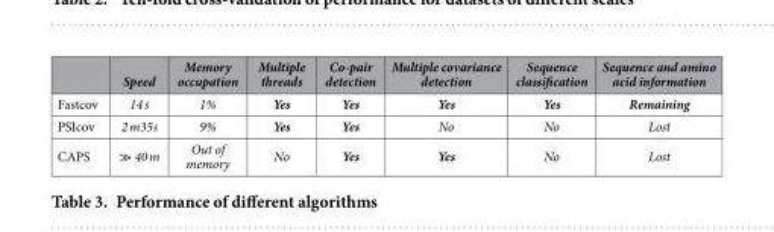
<table><thead><tr><td></td><td>Speed</td><td>Memory occupation</td><td>Multiple threads</td><td>Co-pair detection</td><td>Multiple covariance detection</td><td>Sequence classification</td><td>Sequence and amino acid information</td></tr></thead><tbody><tr><td>Fastcov</td><td>14 s</td><td>1%</td><td>Yes</td><td>Yes</td><td>Yes</td><td>Yes</td><td>Remaining</td></tr><tr><td>PSIcov</td><td>2 m35s</td><td>9%</td><td>Yes</td><td>Yes</td><td>No</td><td>No</td><td>Lost</td></tr><tr><td>CAPS</td><td>≫ 40 m</td><td>Out of memory</td><td>No</td><td>Yes</td><td>Yes</td><td>No</td><td>Lost</td></tr></tbody></table>